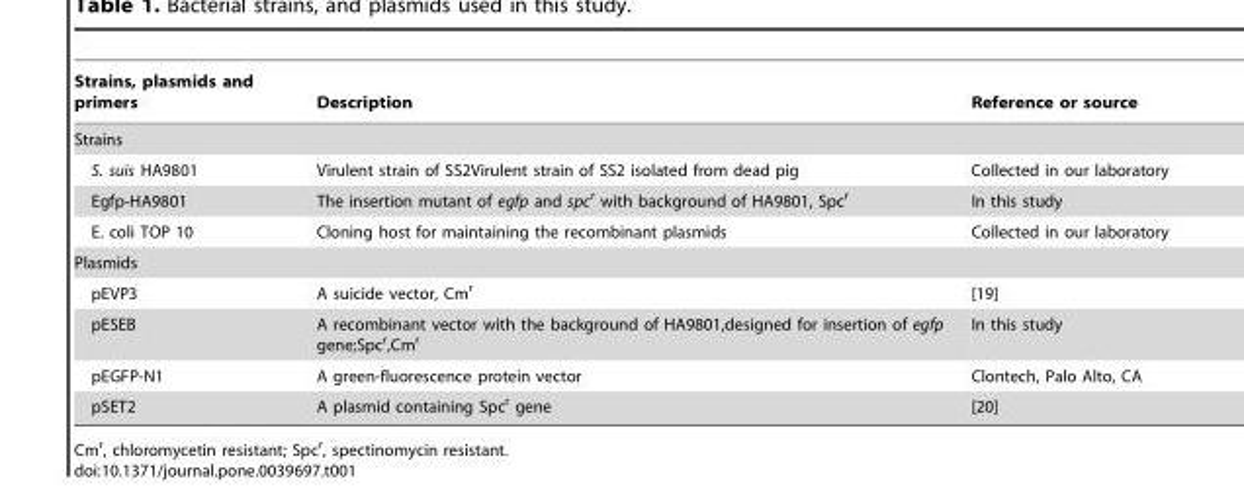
<table><thead><tr><td>Strains, plasmids and primers</td><td>Description</td><td>Reference or source</td></tr></thead><tbody><tr><td colspan="3">Strains</td></tr><tr><td>S. suis HA9801</td><td>Virulent strain of SS2Virulent strain of SS2 isolated from dead pig</td><td>Collected in our laboratory</td></tr><tr><td>Egfp-HA9801</td><td>The insertion mutant of egfp and spc<sup>r</sup> with background of HA9801, Spc<sup>r</sup></td><td>In this study</td></tr><tr><td>E. coli TOP 10</td><td>Cloning host for maintaining the recombinant plasmids</td><td>Collected in our laboratory</td></tr><tr><td colspan="3">Plasmids</td></tr><tr><td>pEVP3</td><td>A suicide vector, Cm<sup>r</sup></td><td>[19]</td></tr><tr><td>pESEB</td><td>A recombinant vector with the background of HA9801,designed for insertion of egfp gene;Spc<sup>r</sup>,Cm<sup>r</sup></td><td>In this study</td></tr><tr><td>pEGFP-N1</td><td>A green-fluorescence protein vector</td><td>Clontech, Palo Alto, CA</td></tr><tr><td>pSET2</td><td>A plasmid containing Spc<sup>r</sup> gene</td><td>[20]</td></tr></tbody></table>